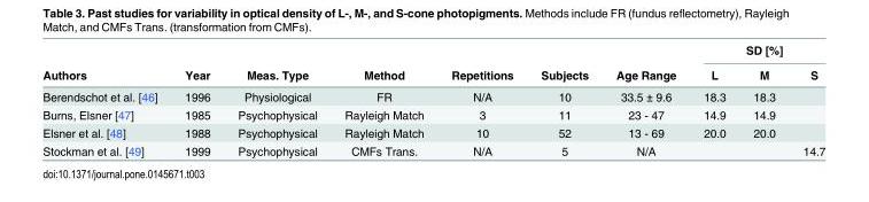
<table><thead><tr><td rowspan="2">Authors</td><td rowspan="2">Year</td><td rowspan="2">Meas. Type</td><td rowspan="2">Method</td><td rowspan="2">Repetitions</td><td rowspan="2">Subjects</td><td rowspan="2">Age Range</td><td colspan="3">SD [%]</td></tr><tr><td>L</td><td>M</td><td>S</td></tr></thead><tbody><tr><td>Berendschot et al. [46]</td><td>1996</td><td>Physiological</td><td>FR</td><td>N/A</td><td>10</td><td>33.5 ± 9.6</td><td>18.3</td><td>18.3</td><td></td></tr><tr><td>Burns, Elsner [47]</td><td>1985</td><td>Psychophysical</td><td>Rayleigh Match</td><td>3</td><td>11</td><td>23 - 47</td><td>14.9</td><td>14.9</td><td></td></tr><tr><td>Elsner et al. [48]</td><td>1988</td><td>Psychophysical</td><td>Rayleigh Match</td><td>10</td><td>52</td><td>13 - 69</td><td>20.0</td><td>20.0</td><td></td></tr><tr><td>Stockman et al. [49]</td><td>1999</td><td>Psychophysical</td><td>CMFs Trans.</td><td>N/A</td><td>5</td><td>N/A</td><td></td><td></td><td>14.7</td></tr></tbody></table>